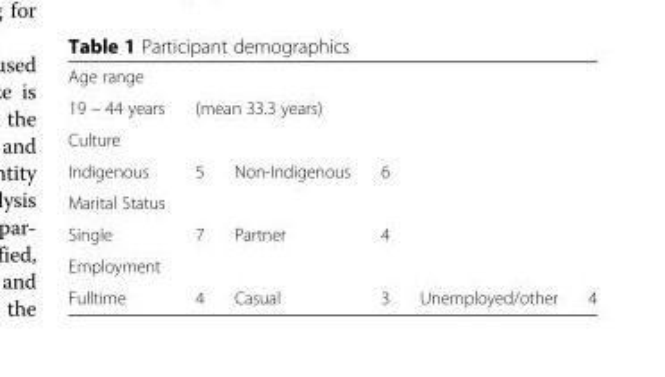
<table><tbody><tr><td colspan="6">Age range</td></tr><tr><td>19 – 44 years</td><td colspan="5">(mean 33.3 years)</td></tr><tr><td colspan="6">Culture</td></tr><tr><td>Indigenous</td><td>5</td><td>Non-Indigenous</td><td>6</td><td></td><td></td></tr><tr><td colspan="6">Marital Status</td></tr><tr><td>Single</td><td>7</td><td>Partner</td><td>4</td><td></td><td></td></tr><tr><td colspan="6">Employment</td></tr><tr><td>Fulltime</td><td>4</td><td>Casual</td><td>3</td><td>Unemployed/other</td><td>4</td></tr></tbody></table>